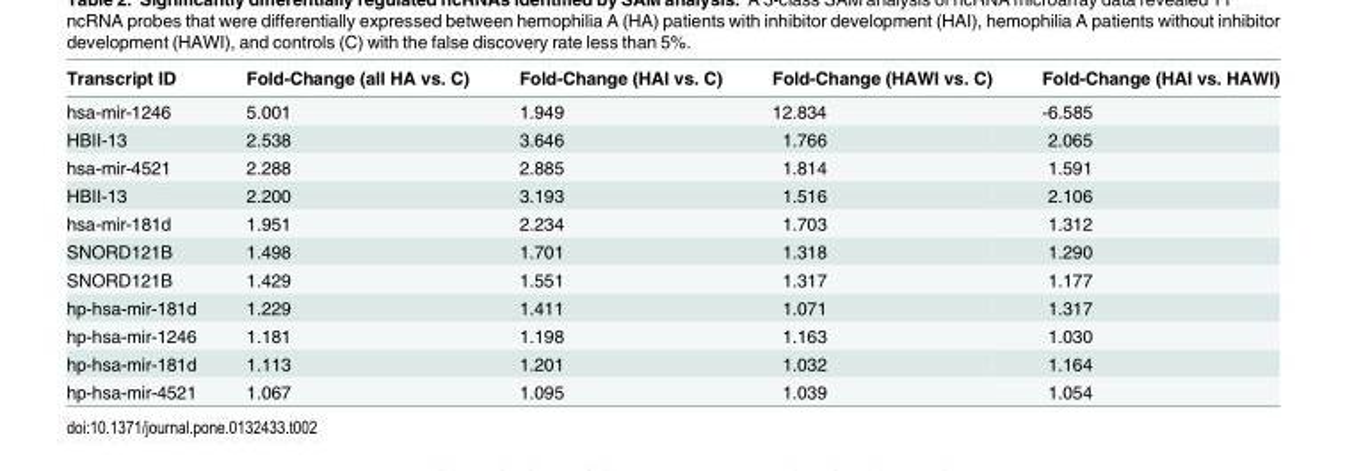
<table><thead><tr><td>Transcript ID</td><td>Fold-Change (all HA vs. C)</td><td>Fold-Change (HAI vs. C)</td><td>Fold-Change (HAWI vs. C)</td><td>Fold-Change (HAI vs. HAWI)</td></tr></thead><tbody><tr><td>hsa-mir-1246</td><td>5.001</td><td>1.949</td><td>12.834</td><td>-6.585</td></tr><tr><td>HBII-13</td><td>2.538</td><td>3.646</td><td>1.766</td><td>2.065</td></tr><tr><td>hsa-mir-4521</td><td>2.288</td><td>2.885</td><td>1.814</td><td>1.591</td></tr><tr><td>HBII-13</td><td>2.200</td><td>3.193</td><td>1.516</td><td>2.106</td></tr><tr><td>hsa-mir-181d</td><td>1.951</td><td>2.234</td><td>1.703</td><td>1.312</td></tr><tr><td>SNORD121B</td><td>1.498</td><td>1.701</td><td>1.318</td><td>1.290</td></tr><tr><td>SNORD121B</td><td>1.429</td><td>1.551</td><td>1.317</td><td>1.177</td></tr><tr><td>hp-hsa-mir-181d</td><td>1.229</td><td>1.411</td><td>1.071</td><td>1.317</td></tr><tr><td>hp-hsa-mir-1246</td><td>1.181</td><td>1.198</td><td>1.163</td><td>1.030</td></tr><tr><td>hp-hsa-mir-181d</td><td>1.113</td><td>1.201</td><td>1.032</td><td>1.164</td></tr><tr><td>hp-hsa-mir-4521</td><td>1.067</td><td>1.095</td><td>1.039</td><td>1.054</td></tr></tbody></table>